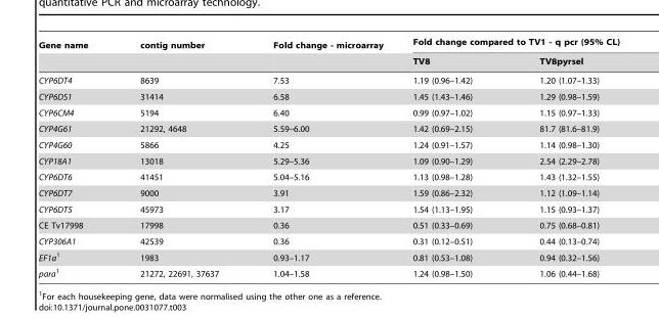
<table><thead><tr><td rowspan="2">Gene name</td><td rowspan="2">contig number</td><td rowspan="2">Fold change - microarray</td><td colspan="2">Fold change compared to TV1 - q pcr (95% CL)</td></tr><tr><td>TV8</td><td>TV8pyrsel</td></tr></thead><tbody><tr><td>CYP6DT4</td><td>8639</td><td>7.53</td><td>1.19 (0.96–1.42)</td><td>1.20 (1.07–1.33)</td></tr><tr><td>CYP6DS1</td><td>31414</td><td>6.58</td><td>1.45 (1.43–1.46)</td><td>1.29 (0.98–1.59)</td></tr><tr><td>CYP6CM4</td><td>5194</td><td>6.40</td><td>0.99 (0.97–1.02)</td><td>1.15 (0.97–1.33)</td></tr><tr><td>CYP4G61</td><td>21292, 4648</td><td>5.59–6.00</td><td>1.42 (0.69–2.15)</td><td>81.7 (81.6–81.9)</td></tr><tr><td>CYP4G60</td><td>5866</td><td>4.25</td><td>1.24 (0.91–1.57)</td><td>1.14 (0.98–1.30)</td></tr><tr><td>CYP18A1</td><td>13018</td><td>5.29–5.36</td><td>1.09 (0.90–1.29)</td><td>2.54 (2.29–2.78)</td></tr><tr><td>CYP6DT6</td><td>41451</td><td>5.04–5.16</td><td>1.13 (0.98–1.28)</td><td>1.43 (1.32–1.55)</td></tr><tr><td>CYP6DT7</td><td>9000</td><td>3.91</td><td>1.59 (0.86–2.32)</td><td>1.12 (1.09–1.14)</td></tr><tr><td>CYP6DT5</td><td>45973</td><td>3.17</td><td>1.54 (1.13–1.95)</td><td>1.15 (0.93–1.37)</td></tr><tr><td>CE Tv17998</td><td>17998</td><td>0.36</td><td>0.51 (0.33–0.69)</td><td>0.75 (0.68–0.81)</td></tr><tr><td>CYP306A1</td><td>42539</td><td>0.36</td><td>0.31 (0.12–0.51)</td><td>0.44 (0.13–0.74)</td></tr><tr><td>EF1a1</td><td>1983</td><td>0.93–1.17</td><td>0.81 (0.53–1.08)</td><td>0.94 (0.32–1.56)</td></tr><tr><td>para1</td><td>21272, 22691, 37637</td><td>1.04–1.58</td><td>1.24 (0.98–1.50)</td><td>1.06 (0.44–1.68)</td></tr></tbody></table>